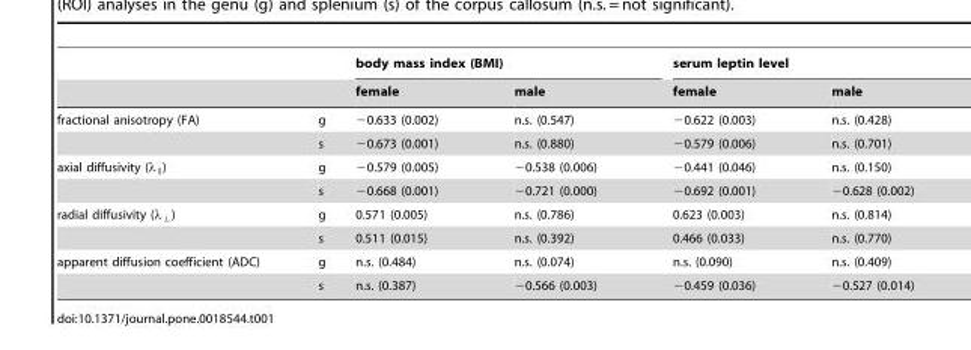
<table><thead><tr><td rowspan="2"></td><td rowspan="2"></td><td colspan="2">body mass index (BMI)</td><td colspan="2">serum leptin level</td></tr><tr><td>female</td><td>male</td><td>female</td><td>male</td></tr></thead><tbody><tr><td rowspan="2">fractional anisotropy (FA)</td><td>g</td><td>−0.633 (0.002)</td><td>n.s. (0.547)</td><td>−0.622 (0.003)</td><td>n.s. (0.428)</td></tr><tr><td>s</td><td>−0.673 (0.001)</td><td>n.s. (0.880)</td><td>−0.579 (0.006)</td><td>n.s. (0.701)</td></tr><tr><td rowspan="2">axial diffusivity (λ<sub>∥</sub>)</td><td>g</td><td>−0.579 (0.005)</td><td>−0.538 (0.006)</td><td>−0.441 (0.046)</td><td>n.s. (0.150)</td></tr><tr><td>s</td><td>−0.668 (0.001)</td><td>−0.721 (0.000)</td><td>−0.692 (0.001)</td><td>−0.628 (0.002)</td></tr><tr><td rowspan="2">radial diffusivity (λ<sub>⊥</sub>)</td><td>g</td><td>0.571 (0.005)</td><td>n.s. (0.786)</td><td>0.623 (0.003)</td><td>n.s. (0.814)</td></tr><tr><td>s</td><td>0.511 (0.015)</td><td>n.s. (0.392)</td><td>0.466 (0.033)</td><td>n.s. (0.770)</td></tr><tr><td rowspan="2">apparent diffusion coefficient (ADC)</td><td>g</td><td>n.s. (0.484)</td><td>n.s. (0.074)</td><td>n.s. (0.090)</td><td>n.s. (0.409)</td></tr><tr><td>s</td><td>n.s. (0.387)</td><td>−0.566 (0.003)</td><td>−0.459 (0.036)</td><td>−0.527 (0.014)</td></tr></tbody></table>